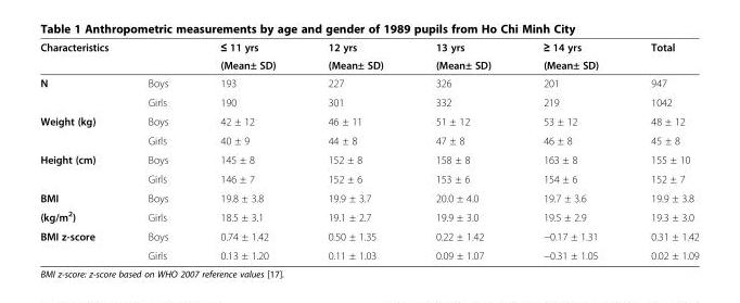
<table><thead><tr><td colspan="2">Characteristics</td><td rowspan="2">≤ 11 yrs (Mean± SD)</td><td rowspan="2">12 yrs (Mean± SD)</td><td rowspan="2">13 yrs (Mean± SD)</td><td rowspan="2">≥ 14 yrs (Mean± SD)</td><td rowspan="2">Total</td></tr><tr><td></td><td></td></tr></thead><tbody><tr><td rowspan="2">N</td><td>Boys</td><td>193</td><td>227</td><td>326</td><td>201</td><td>947</td></tr><tr><td>Girls</td><td>190</td><td>301</td><td>332</td><td>219</td><td>1042</td></tr><tr><td rowspan="2">Weight (kg)</td><td>Boys</td><td>42 ± 12</td><td>46 ± 11</td><td>51 ± 12</td><td>53 ± 12</td><td>48 ± 12</td></tr><tr><td>Girls</td><td>40 ± 9</td><td>44 ± 8</td><td>47 ± 8</td><td>46 ± 8</td><td>45 ± 8</td></tr><tr><td rowspan="2">Height (cm)</td><td>Boys</td><td>145 ± 8</td><td>152 ± 8</td><td>158 ± 8</td><td>163 ± 8</td><td>155 ± 10</td></tr><tr><td>Girls</td><td>146 ± 7</td><td>152 ± 6</td><td>153 ± 6</td><td>154 ± 6</td><td>152 ± 7</td></tr><tr><td>BMI</td><td>Boys</td><td>19.8 ± 3.8</td><td>19.9 ± 3.7</td><td>20.0 ± 4.0</td><td>19.7 ± 3.6</td><td>19.9 ± 3.8</td></tr><tr><td>(kg/m<sup>2</sup>)</td><td>Girls</td><td>18.5 ± 3.1</td><td>19.1 ± 2.7</td><td>19.9 ± 3.0</td><td>19.5 ± 2.9</td><td>19.3 ± 3.0</td></tr><tr><td rowspan="2">BMI z-score</td><td>Boys</td><td>0.74 ± 1.42</td><td>0.50 ± 1.35</td><td>0.22 ± 1.42</td><td>−0.17 ± 1.31</td><td>0.31 ± 1.42</td></tr><tr><td>Girls</td><td>0.13 ± 1.20</td><td>0.11 ± 1.03</td><td>0.09 ± 1.07</td><td>−0.31 ± 1.05</td><td>0.02 ± 1.09</td></tr></tbody></table>